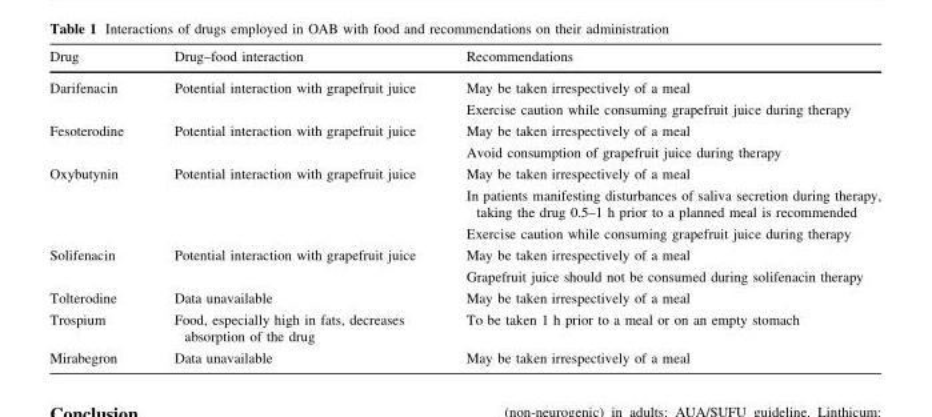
<table><thead><tr><td>Drug</td><td>Drug–food interaction</td><td>Recommendations</td></tr></thead><tbody><tr><td>Darifenacin</td><td>Potential interaction with grapefruit juice</td><td>May be taken irrespectively of a meal Exercise caution while consuming grapefruit juice during therapy</td></tr><tr><td>Fesoterodine</td><td>Potential interaction with grapefruit juice</td><td>May be taken irrespectively of a meal Avoid consumption of grapefruit juice during therapy</td></tr><tr><td>Oxybutynin</td><td>Potential interaction with grapefruit juice</td><td>May be taken irrespectively of a meal In patients manifesting disturbances of saliva secretion during therapy, taking the drug 0.5–1 h prior to a planned meal is recommended Exercise caution while consuming grapefruit juice during therapy</td></tr><tr><td>Solifenacin</td><td>Potential interaction with grapefruit juice</td><td>May be taken irrespectively of a meal Grapefruit juice should not be consumed during solifenacin therapy</td></tr><tr><td>Tolterodine</td><td>Data unavailable</td><td>May be taken irrespectively of a meal</td></tr><tr><td>Trospium</td><td>Food, especially high in fats, decreases absorption of the drug</td><td>To be taken 1 h prior to a meal or on an empty stomach</td></tr><tr><td>Mirabegron</td><td>Data unavailable</td><td>May be taken irrespectively of a meal</td></tr></tbody></table>